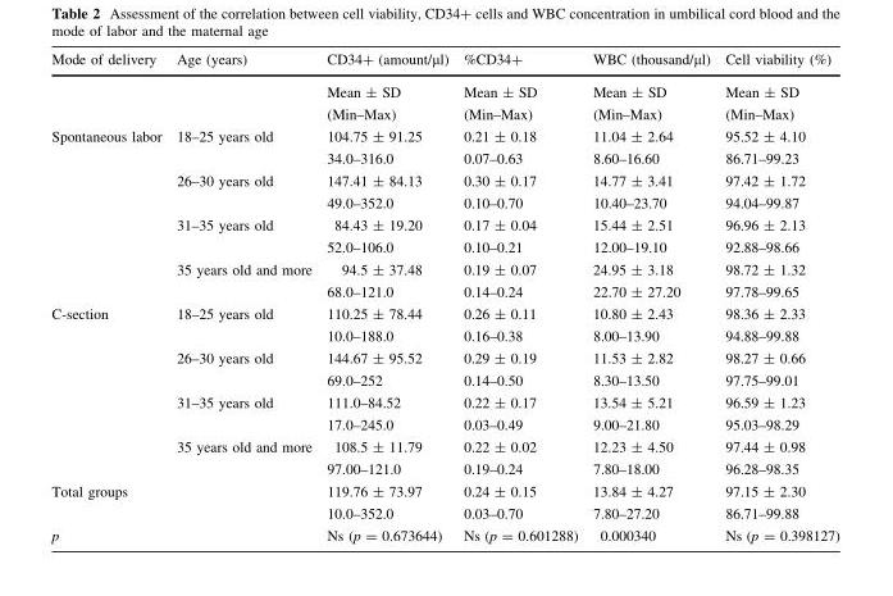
<table><thead><tr><td>Mode of delivery</td><td>Age (years)</td><td>CD34+ (amount/μl)</td><td>%CD34+</td><td>WBC (thousand/μl)</td><td>Cell viability (%)</td></tr></thead><tbody><tr><td></td><td></td><td>Mean ± SD (Min–Max)</td><td>Mean ± SD (Min–Max)</td><td>Mean ± SD (Min–Max)</td><td>Mean ± SD (Min–Max)</td></tr><tr><td rowspan="4">Spontaneous labor</td><td>18–25 years old</td><td>104.75 ± 91.25 34.0–316.0</td><td>0.21 ± 0.18 0.07–0.63</td><td>11.04 ± 2.64 8.60–16.60</td><td>95.52 ± 4.10 86.71–99.23</td></tr><tr><td>26–30 years old</td><td>147.41 ± 84.13 49.0–352.0</td><td>0.30 ± 0.17 0.10–0.70</td><td>14.77 ± 3.41 10.40–23.70</td><td>97.42 ± 1.72 94.04–99.87</td></tr><tr><td>31–35 years old</td><td>84.43 ± 19.20 52.0–106.0</td><td>0.17 ± 0.04 0.10–0.21</td><td>15.44 ± 2.51 12.00–19.10</td><td>96.96 ± 2.13 92.88–98.66</td></tr><tr><td>35 years old and more</td><td>94.5 ± 37.48 68.0–121.0</td><td>0.19 ± 0.07 0.14–0.24</td><td>24.95 ± 3.18 22.70 ± 27.20</td><td>98.72 ± 1.32 97.78–99.65</td></tr><tr><td rowspan="4">C-section</td><td>18–25 years old</td><td>110.25 ± 78.44 10.0–188.0</td><td>0.26 ± 0.11 0.16–0.38</td><td>10.80 ± 2.43 8.00–13.90</td><td>98.36 ± 2.33 94.88–99.88</td></tr><tr><td>26–30 years old</td><td>144.67 ± 95.52 69.0–252</td><td>0.29 ± 0.19 0.14–0.50</td><td>11.53 ± 2.82 8.30–13.50</td><td>98.27 ± 0.66 97.75–99.01</td></tr><tr><td>31–35 years old</td><td>111.0–84.52 17.0–245.0</td><td>0.22 ± 0.17 0.03–0.49</td><td>13.54 ± 5.21 9.00–21.80</td><td>96.59 ± 1.23 95.03–98.29</td></tr><tr><td>35 years old and more</td><td>108.5 ± 11.79 97.00–121.0</td><td>0.22 ± 0.02 0.19–0.24</td><td>12.23 ± 4.50 7.80–18.00</td><td>97.44 ± 0.98 96.28–98.35</td></tr><tr><td colspan="2">Total groups</td><td>119.76 ± 73.97 10.0–352.0</td><td>0.24 ± 0.15 0.03–0.70</td><td>13.84 ± 4.27 7.80–27.20</td><td>97.15 ± 2.30 86.71–99.88</td></tr><tr><td colspan="2">p</td><td>Ns (p = 0.673644)</td><td>Ns (p = 0.601288)</td><td>0.000340</td><td>Ns (p = 0.398127)</td></tr></tbody></table>